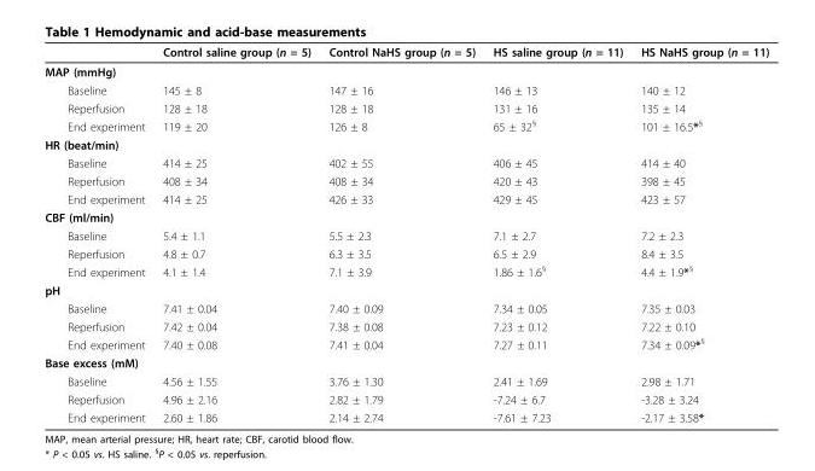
<table><thead><tr><td></td><td>Control saline group (n = 5)</td><td>Control NaHS group (n = 5)</td><td>HS saline group (n = 11)</td><td>HS NaHS group (n = 11)</td></tr></thead><tbody><tr><td colspan="5">MAP (mmHg)</td></tr><tr><td>Baseline</td><td>145 ± 8</td><td>147 ± 16</td><td>146 ± 13</td><td>140 ± 12</td></tr><tr><td>Reperfusion</td><td>128 ± 18</td><td>128 ± 18</td><td>131 ± 16</td><td>135 ± 14</td></tr><tr><td>End experiment</td><td>119 ± 20</td><td>126 ± 8</td><td>65 ± 32<sup>§</sup></td><td>101 ± 16.5*<sup>§</sup></td></tr><tr><td colspan="5">HR (beat/min)</td></tr><tr><td>Baseline</td><td>414 ± 25</td><td>402 ± 55</td><td>406 ± 45</td><td>414 ± 40</td></tr><tr><td>Reperfusion</td><td>408 ± 34</td><td>408 ± 34</td><td>420 ± 43</td><td>398 ± 45</td></tr><tr><td>End experiment</td><td>414 ± 25</td><td>426 ± 33</td><td>429 ± 45</td><td>423 ± 57</td></tr><tr><td colspan="5">CBF (ml/min)</td></tr><tr><td>Baseline</td><td>5.4 ± 1.1</td><td>5.5 ± 2.3</td><td>7.1 ± 2.7</td><td>7.2 ± 2.3</td></tr><tr><td>Reperfusion</td><td>4.8 ± 0.7</td><td>6.3 ± 3.5</td><td>6.5 ± 2.9</td><td>8.4 ± 3.5</td></tr><tr><td>End experiment</td><td>4.1 ± 1.4</td><td>7.1 ± 3.9</td><td>1.86 ± 1.6<sup>§</sup></td><td>4.4 ± 1.9*<sup>§</sup></td></tr><tr><td colspan="5">pH</td></tr><tr><td>Baseline</td><td>7.41 ± 0.04</td><td>7.40 ± 0.09</td><td>7.34 ± 0.05</td><td>7.35 ± 0.03</td></tr><tr><td>Reperfusion</td><td>7.42 ± 0.04</td><td>7.38 ± 0.08</td><td>7.23 ± 0.12</td><td>7.22 ± 0.10</td></tr><tr><td>End experiment</td><td>7.40 ± 0.08</td><td>7.41 ± 0.04</td><td>7.27 ± 0.11</td><td>7.34 ± 0.09*<sup>§</sup></td></tr><tr><td colspan="5">Base excess (mM)</td></tr><tr><td>Baseline</td><td>4.56 ± 1.55</td><td>3.76 ± 1.30</td><td>2.41 ± 1.69</td><td>2.98 ± 1.71</td></tr><tr><td>Reperfusion</td><td>4.96 ± 2.16</td><td>2.82 ± 1.79</td><td>-7.24 ± 6.7</td><td>-3.28 ± 3.24</td></tr><tr><td>End experiment</td><td>2.60 ± 1.86</td><td>2.14 ± 2.74</td><td>-7.61 ± 7.23</td><td>-2.17 ± 3.58*</td></tr></tbody></table>